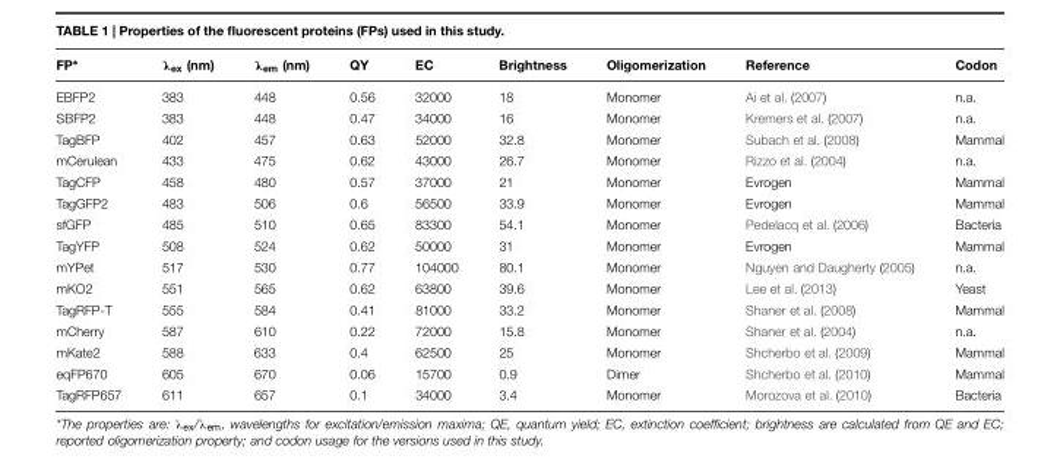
<table><thead><tr><td>FP∗</td><td>λex (nm)</td><td>λ<sub>em</sub> (nm)</td><td>QY</td><td>EC</td><td>Brightness</td><td>Oligomerization</td><td>Reference</td><td>Codon</td></tr></thead><tbody><tr><td>EBFP2</td><td>383</td><td>448</td><td>0.56</td><td>32000</td><td>18</td><td>Monomer</td><td>Ai et al. (2007)</td><td>n.a.</td></tr><tr><td>SBFP2</td><td>383</td><td>448</td><td>0.47</td><td>34000</td><td>16</td><td>Monomer</td><td>Kremers et al. (2007)</td><td>n.a.</td></tr><tr><td>TagBFP</td><td>402</td><td>457</td><td>0.63</td><td>52000</td><td>32.8</td><td>Monomer</td><td>Subach et al. (2008)</td><td>Mammal</td></tr><tr><td>mCerulean</td><td>433</td><td>475</td><td>0.62</td><td>43000</td><td>26.7</td><td>Monomer</td><td>Rizzo et al. (2004)</td><td>n.a.</td></tr><tr><td>TagCFP</td><td>458</td><td>480</td><td>0.57</td><td>37000</td><td>21</td><td>Monomer</td><td>Evrogen</td><td>Mammal</td></tr><tr><td>TagGFP2</td><td>483</td><td>506</td><td>0.6</td><td>56500</td><td>33.9</td><td>Monomer</td><td>Evrogen</td><td>Mammal</td></tr><tr><td>sfGFP</td><td>485</td><td>510</td><td>0.65</td><td>83300</td><td>54.1</td><td>Monomer</td><td>Pedelacq et al. (2006)</td><td>Bacteria</td></tr><tr><td>TagYFP</td><td>508</td><td>524</td><td>0.62</td><td>50000</td><td>31</td><td>Monomer</td><td>Evrogen</td><td>Mammal</td></tr><tr><td>mYPet</td><td>517</td><td>530</td><td>0.77</td><td>104000</td><td>80.1</td><td>Monomer</td><td>Nguyen and Daugherty (2005)</td><td>n.a.</td></tr><tr><td>mKO2</td><td>551</td><td>565</td><td>0.62</td><td>63800</td><td>39.6</td><td>Monomer</td><td>Lee et al. (2013)</td><td>Yeast</td></tr><tr><td>TagRFP-T</td><td>555</td><td>584</td><td>0.41</td><td>81000</td><td>33.2</td><td>Monomer</td><td>Shaner et al. (2008)</td><td>Mammal</td></tr><tr><td>mCherry</td><td>587</td><td>610</td><td>0.22</td><td>72000</td><td>15.8</td><td>Monomer</td><td>Shaner et al. (2004)</td><td>n.a.</td></tr><tr><td>mKate2</td><td>588</td><td>633</td><td>0.4</td><td>62500</td><td>25</td><td>Monomer</td><td>Shcherbo et al. (2009)</td><td>Mammal</td></tr><tr><td>eqFP670</td><td>605</td><td>670</td><td>0.06</td><td>15700</td><td>0.9</td><td>Dimer</td><td>Shcherbo et al. (2010)</td><td>Mammal</td></tr><tr><td>TagRFP657</td><td>611</td><td>657</td><td>0.1</td><td>34000</td><td>3.4</td><td>Monomer</td><td>Morozova et al. (2010)</td><td>Bacteria</td></tr></tbody></table>